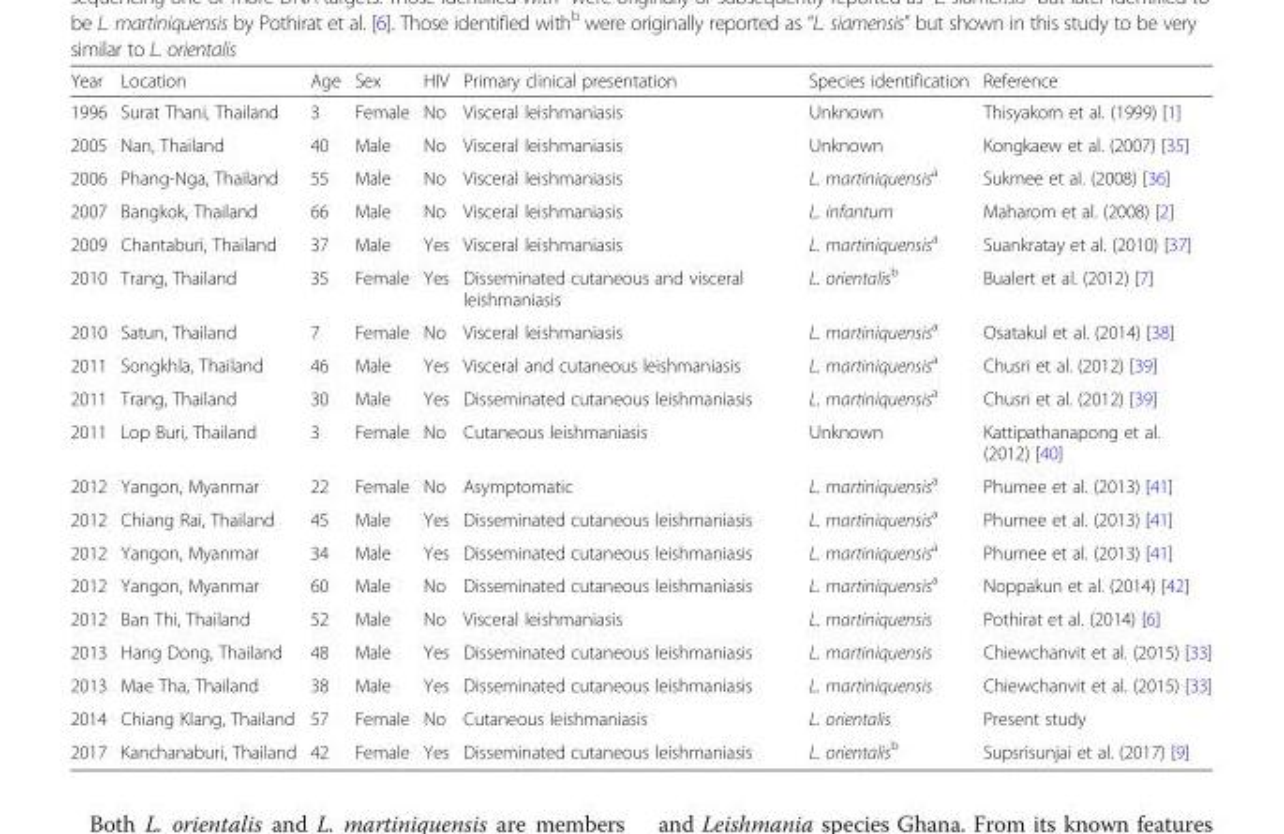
<table><thead><tr><td>Year</td><td>Location</td><td>Age</td><td>Sex</td><td>HIV</td><td>Primary clinical presentation</td><td>Species identification</td><td>Reference</td></tr></thead><tbody><tr><td>1996</td><td>Surat Thani, Thailand</td><td>3</td><td>Female</td><td>No</td><td>Visceral leishmaniasis</td><td>Unknown</td><td>Thisyakorn et al. (1999) [1]</td></tr><tr><td>2005</td><td>Nan, Thailand</td><td>40</td><td>Male</td><td>No</td><td>Visceral leishmaniasis</td><td>Unknown</td><td>Kongkaew et al. (2007) [35]</td></tr><tr><td>2006</td><td>Phang-Nga, Thailand</td><td>55</td><td>Male</td><td>No</td><td>Visceral leishmaniasis</td><td>L. martiniquensis<sup>a</sup></td><td>Sukmee et al. (2008) [36]</td></tr><tr><td>2007</td><td>Bangkok, Thailand</td><td>66</td><td>Male</td><td>No</td><td>Visceral leishmaniasis</td><td>L. infantum</td><td>Maharom et al. (2008) [2]</td></tr><tr><td>2009</td><td>Chantaburi, Thailand</td><td>37</td><td>Male</td><td>Yes</td><td>Visceral leishmaniasis</td><td>L. martiniquensis<sup>a</sup></td><td>Suankratay et al. (2010) [37]</td></tr><tr><td>2010</td><td>Trang, Thailand</td><td>35</td><td>Female</td><td>Yes</td><td>Disseminated cutaneous and visceral leishmaniasis</td><td>L. orientalis<sup>b</sup></td><td>Bualert et al. (2012) [7]</td></tr><tr><td>2010</td><td>Satun, Thailand</td><td>7</td><td>Female</td><td>No</td><td>Visceral leishmaniasis</td><td>L. martiniquensis<sup>a</sup></td><td>Osatakul et al. (2014) [38]</td></tr><tr><td>2011</td><td>Songkhla, Thailand</td><td>46</td><td>Male</td><td>Yes</td><td>Visceral and cutaneous leishmaniasis</td><td>L. martiniquensis<sup>a</sup></td><td>Chusri et al. (2012) [39]</td></tr><tr><td>2011</td><td>Trang, Thailand</td><td>30</td><td>Male</td><td>Yes</td><td>Disseminated cutaneous leishmaniasis</td><td>L. martiniquensis<sup>a</sup></td><td>Chusri et al. (2012) [39]</td></tr><tr><td>2011</td><td>Lop Buri, Thailand</td><td>3</td><td>Female</td><td>No</td><td>Cutaneous leishmaniasis</td><td>Unknown</td><td>Kattipathanapong et al. (2012) [40]</td></tr><tr><td>2012</td><td>Yangon, Myanmar</td><td>22</td><td>Female</td><td>No</td><td>Asymptomatic</td><td>L. martiniquensis<sup>a</sup></td><td>Phumee et al. (2013) [41]</td></tr><tr><td>2012</td><td>Chiang Rai, Thailand</td><td>45</td><td>Male</td><td>Yes</td><td>Disseminated cutaneous leishmaniasis</td><td>L. martiniquensis<sup>a</sup></td><td>Phumee et al. (2013) [41]</td></tr><tr><td>2012</td><td>Yangon, Myanmar</td><td>34</td><td>Male</td><td>Yes</td><td>Disseminated cutaneous leishmaniasis</td><td>L. martiniquensis<sup>a</sup></td><td>Phumee et al. (2013) [41]</td></tr><tr><td>2012</td><td>Yangon, Myanmar</td><td>60</td><td>Male</td><td>No</td><td>Disseminated cutaneous leishmaniasis</td><td>L. martiniquensis<sup>a</sup></td><td>Noppakun et al. (2014) [42]</td></tr><tr><td>2012</td><td>Ban Thi, Thailand</td><td>52</td><td>Male</td><td>No</td><td>Visceral leishmaniasis</td><td>L. martiniquensis</td><td>Pothirat et al. (2014) [6]</td></tr><tr><td>2013</td><td>Hang Dong, Thailand</td><td>48</td><td>Male</td><td>Yes</td><td>Disseminated cutaneous leishmaniasis</td><td>L. martiniquensis</td><td>Chiewchanvit et al. (2015) [33]</td></tr><tr><td>2013</td><td>Mae Tha, Thailand</td><td>38</td><td>Male</td><td>Yes</td><td>Disseminated cutaneous leishmaniasis</td><td>L. martiniquensis</td><td>Chiewchanvit et al. (2015) [33]</td></tr><tr><td>2014</td><td>Chiang Klang, Thailand</td><td>57</td><td>Female</td><td>No</td><td>Cutaneous leishmaniasis</td><td>L. orientalis</td><td>Present study</td></tr><tr><td>2017</td><td>Kanchanaburi, Thailand</td><td>42</td><td>Female</td><td>Yes</td><td>Disseminated cutaneous leishmaniasis</td><td>L. orientalis<sup>b</sup></td><td>Supsrisunjai et al. (2017) [9]</td></tr></tbody></table>